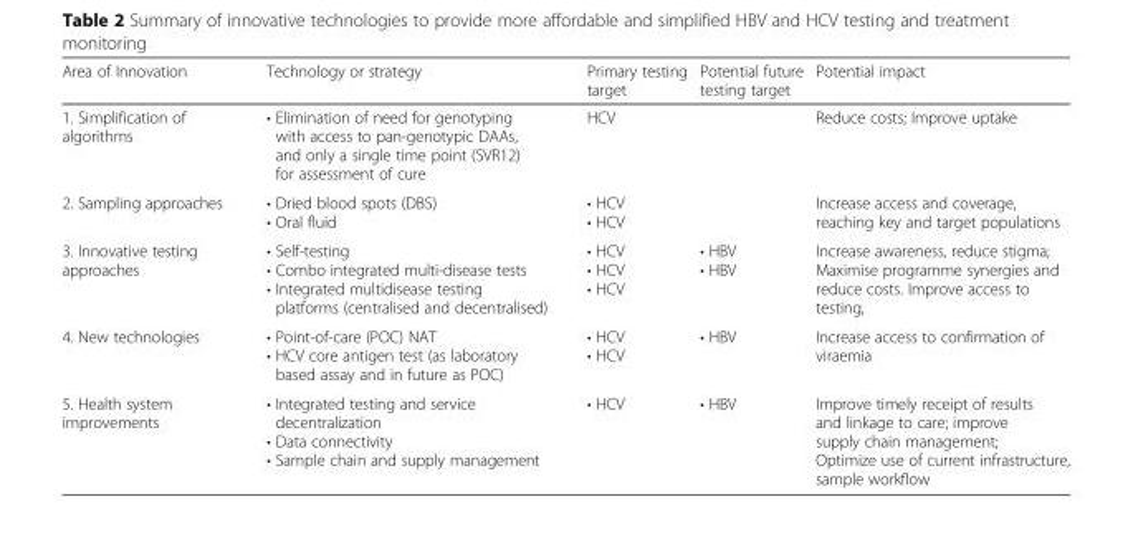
<table><thead><tr><td>Area of Innovation</td><td>Technology or strategy</td><td>Primary testing target</td><td>Potential future testing target</td><td>Potential impact</td></tr></thead><tbody><tr><td>1. Simplification of algorithms</td><td>• Elimination of need for genotyping with access to pan-genotypic DAAs, and only a single time point (SVR12) for assessment of cure</td><td>HCV</td><td></td><td>Reduce costs; Improve uptake</td></tr><tr><td>2. Sampling approaches</td><td>• Dried blood spots (DBS) • Oral fluid</td><td>• HCV • HCV</td><td></td><td>Increase access and coverage, reaching key and target populations</td></tr><tr><td>3. Innovative testing approaches</td><td>• Self-testing • Combo integrated multi-disease tests • Integrated multidisease testing platforms (centralised and decentralised)</td><td>• HCV • HCV • HCV</td><td>• HBV • HBV</td><td>Increase awareness, reduce stigma; Maximise programme synergies and reduce costs. Improve access to testing,</td></tr><tr><td>4. New technologies</td><td>• Point-of-care (POC) NAT • HCV core antigen test (as laboratory based assay and in future as POC)</td><td>• HCV • HCV</td><td>• HBV</td><td>Increase access to confirmation of viraemia</td></tr><tr><td>5. Health system improvements</td><td>• Integrated testing and service decentralization • Data connectivity • Sample chain and supply management</td><td>• HCV</td><td>• HBV</td><td>Improve timely receipt of results and linkage to care; improve supply chain management; Optimize use of current infrastructure, sample workflow</td></tr></tbody></table>